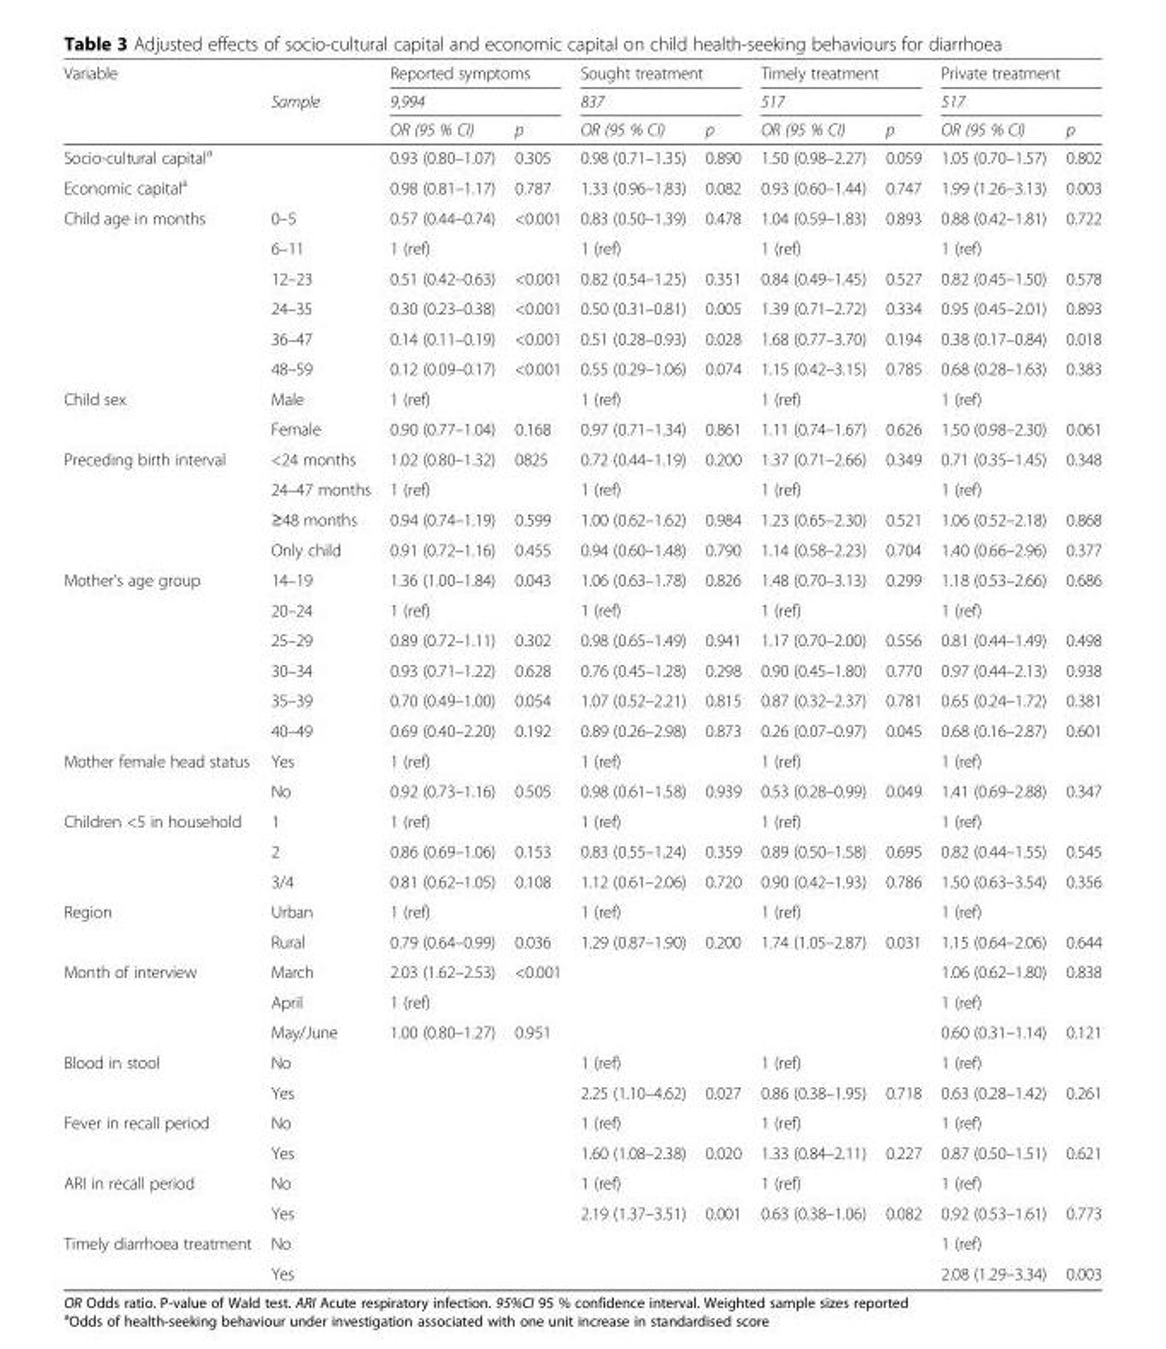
<table><thead><tr><td rowspan="3">Variable</td><td rowspan="3">Sample</td><td rowspan="2" colspan="2">Reported symptoms 9,994</td><td rowspan="2" colspan="2">Sought treatment 837</td><td rowspan="2" colspan="2">Timely treatment 517</td><td rowspan="2" colspan="2">Private treatment 517</td></tr><tr></tr><tr><td>OR (95 % CI)</td><td>p</td><td>OR (95 % CI)</td><td>p</td><td>OR (95 % CI)</td><td>p</td><td>OR (95 % CI)</td><td>p</td></tr></thead><tbody><tr><td colspan="2">Socio-cultural capital<sup>a</sup></td><td>0.93 (0.80–1.07)</td><td>0.305</td><td>0.98 (0.71–1.35)</td><td>0.890</td><td>1.50 (0.98–2.27)</td><td>0.059</td><td>1.05 (0.70–1.57)</td><td>0.802</td></tr><tr><td colspan="2">Economic capital<sup>a</sup></td><td>0.98 (0.81–1.17)</td><td>0.787</td><td>1.33 (0.96–1.83)</td><td>0.082</td><td>0.93 (0.60–1.44)</td><td>0.747</td><td>1.99 (1.26–3.13)</td><td>0.003</td></tr><tr><td rowspan="6">Child age in months</td><td>0–5</td><td>0.57 (0.44–0.74)</td><td>&lt;0.001</td><td>0.83 (0.50–1.39)</td><td>0.478</td><td>1.04 (0.59–1.83)</td><td>0.893</td><td>0.88 (0.42–1.81)</td><td>0.722</td></tr><tr><td>6–11</td><td>1 (ref)</td><td></td><td>1 (ref)</td><td></td><td>1 (ref)</td><td></td><td>1 (ref)</td><td></td></tr><tr><td>12–23</td><td>0.51 (0.42–0.63)</td><td>&lt;0.001</td><td>0.82 (0.54–1.25)</td><td>0.351</td><td>0.84 (0.49–1.45)</td><td>0.527</td><td>0.82 (0.45–1.50)</td><td>0.578</td></tr><tr><td>24–35</td><td>0.30 (0.23–0.38)</td><td>&lt;0.001</td><td>0.50 (0.31–0.81)</td><td>0.005</td><td>1.39 (0.71–2.72)</td><td>0.334</td><td>0.95 (0.45–2.01)</td><td>0.893</td></tr><tr><td>36–47</td><td>0.14 (0.11–0.19)</td><td>&lt;0.001</td><td>0.51 (0.28–0.93)</td><td>0.028</td><td>1.68 (0.77–3.70)</td><td>0.194</td><td>0.38 (0.17–0.84)</td><td>0.018</td></tr><tr><td>48–59</td><td>0.12 (0.09–0.17)</td><td>&lt;0.001</td><td>0.55 (0.29–1.06)</td><td>0.074</td><td>1.15 (0.42–3.15)</td><td>0.785</td><td>0.68 (0.28–1.63)</td><td>0.383</td></tr><tr><td rowspan="2">Child sex</td><td>Male</td><td>1 (ref)</td><td></td><td>1 (ref)</td><td></td><td>1 (ref)</td><td></td><td>1 (ref)</td><td></td></tr><tr><td>Female</td><td>0.90 (0.77–1.04)</td><td>0.168</td><td>0.97 (0.71–1.34)</td><td>0.861</td><td>1.11 (0.74–1.67)</td><td>0.626</td><td>1.50 (0.98–2.30)</td><td>0.061</td></tr><tr><td rowspan="4">Preceding birth interval</td><td>&lt;24 months</td><td>1.02 (0.80–1.32)</td><td>0825</td><td>0.72 (0.44–1.19)</td><td>0.200</td><td>1.37 (0.71–2.66)</td><td>0.349</td><td>0.71 (0.35–1.45)</td><td>0.348</td></tr><tr><td>24–47 months</td><td>1 (ref)</td><td></td><td>1 (ref)</td><td></td><td>1 (ref)</td><td></td><td>1 (ref)</td><td></td></tr><tr><td>≥48 months</td><td>0.94 (0.74–1.19)</td><td>0.599</td><td>1.00 (0.62–1.62)</td><td>0.984</td><td>1.23 (0.65–2.30)</td><td>0.521</td><td>1.06 (0.52–2.18)</td><td>0.868</td></tr><tr><td>Only child</td><td>0.91 (0.72–1.16)</td><td>0.455</td><td>0.94 (0.60–1.48)</td><td>0.790</td><td>1.14 (0.58–2.23)</td><td>0.704</td><td>1.40 (0.66–2.96)</td><td>0.377</td></tr><tr><td rowspan="6">Mother’s age group</td><td>14–19</td><td>1.36 (1.00–1.84)</td><td>0.043</td><td>1.06 (0.63–1.78)</td><td>0.826</td><td>1.48 (0.70–3.13)</td><td>0.299</td><td>1.18 (0.53–2.66)</td><td>0.686</td></tr><tr><td>20–24</td><td>1 (ref)</td><td></td><td>1 (ref)</td><td></td><td>1 (ref)</td><td></td><td>1 (ref)</td><td></td></tr><tr><td>25–29</td><td>0.89 (0.72–1.11)</td><td>0.302</td><td>0.98 (0.65–1.49)</td><td>0.941</td><td>1.17 (0.70–2.00)</td><td>0.556</td><td>0.81 (0.44–1.49)</td><td>0.498</td></tr><tr><td>30–34</td><td>0.93 (0.71–1.22)</td><td>0.628</td><td>0.76 (0.45–1.28)</td><td>0.298</td><td>0.90 (0.45–1.80)</td><td>0.770</td><td>0.97 (0.44–2.13)</td><td>0.938</td></tr><tr><td>35–39</td><td>0.70 (0.49–1.00)</td><td>0.054</td><td>1.07 (0.52–2.21)</td><td>0.815</td><td>0.87 (0.32–2.37)</td><td>0.781</td><td>0.65 (0.24–1.72)</td><td>0.381</td></tr><tr><td>40–49</td><td>0.69 (0.40–2.20)</td><td>0.192</td><td>0.89 (0.26–2.98)</td><td>0.873</td><td>0.26 (0.07–0.97)</td><td>0.045</td><td>0.68 (0.16–2.87)</td><td>0.601</td></tr><tr><td rowspan="2">Mother female head status</td><td>Yes</td><td>1 (ref)</td><td></td><td>1 (ref)</td><td></td><td>1 (ref)</td><td></td><td>1 (ref)</td><td></td></tr><tr><td>No</td><td>0.92 (0.73–1.16)</td><td>0.505</td><td>0.98 (0.61–1.58)</td><td>0.939</td><td>0.53 (0.28–0.99)</td><td>0.049</td><td>1.41 (0.69–2.88)</td><td>0.347</td></tr><tr><td rowspan="3">Children &lt;5 in household</td><td>1</td><td>1 (ref)</td><td></td><td>1 (ref)</td><td></td><td>1 (ref)</td><td></td><td>1 (ref)</td><td></td></tr><tr><td>2</td><td>0.86 (0.69–1.06)</td><td>0.153</td><td>0.83 (0.55–1.24)</td><td>0.359</td><td>0.89 (0.50–1.58)</td><td>0.695</td><td>0.82 (0.44–1.55)</td><td>0.545</td></tr><tr><td>3/4</td><td>0.81 (0.62–1.05)</td><td>0.108</td><td>1.12 (0.61–2.06)</td><td>0.720</td><td>0.90 (0.42–1.93)</td><td>0.786</td><td>1.50 (0.63–3.54)</td><td>0.356</td></tr><tr><td rowspan="2">Region</td><td>Urban</td><td>1 (ref)</td><td></td><td>1 (ref)</td><td></td><td>1 (ref)</td><td></td><td>1 (ref)</td><td></td></tr><tr><td>Rural</td><td>0.79 (0.64–0.99)</td><td>0.036</td><td>1.29 (0.87–1.90)</td><td>0.200</td><td>1.74 (1.05–2.87)</td><td>0.031</td><td>1.15 (0.64–2.06)</td><td>0.644</td></tr><tr><td rowspan="3">Month of interview</td><td>March</td><td>2.03 (1.62–2.53)</td><td>&lt;0.001</td><td></td><td></td><td></td><td></td><td>1.06 (0.62–1.80)</td><td>0.838</td></tr><tr><td>April</td><td>1 (ref)</td><td></td><td></td><td></td><td></td><td></td><td>1 (ref)</td><td></td></tr><tr><td>May/June</td><td>1.00 (0.80–1.27)</td><td>0.951</td><td></td><td></td><td></td><td></td><td>0.60 (0.31–1.14)</td><td>0.121</td></tr><tr><td rowspan="2">Blood in stool</td><td>No</td><td></td><td></td><td>1 (ref)</td><td></td><td>1 (ref)</td><td></td><td>1 (ref)</td><td></td></tr><tr><td>Yes</td><td></td><td></td><td>2.25 (1.10–4.62)</td><td>0.027</td><td>0.86 (0.38–1.95)</td><td>0.718</td><td>0.63 (0.28–1.42)</td><td>0.261</td></tr><tr><td rowspan="2">Fever in recall period</td><td>No</td><td></td><td></td><td>1 (ref)</td><td></td><td>1 (ref)</td><td></td><td>1 (ref)</td><td></td></tr><tr><td>Yes</td><td></td><td></td><td>1.60 (1.08–2.38)</td><td>0.020</td><td>1.33 (0.84–2.11)</td><td>0.227</td><td>0.87 (0.50–1.51)</td><td>0.621</td></tr><tr><td rowspan="2">ARI in recall period</td><td>No</td><td></td><td></td><td>1 (ref)</td><td></td><td>1 (ref)</td><td></td><td>1 (ref)</td><td></td></tr><tr><td>Yes</td><td></td><td></td><td>2.19 (1.37–3.51)</td><td>0.001</td><td>0.63 (0.38–1.06)</td><td>0.082</td><td>0.92 (0.53–1.61)</td><td>0.773</td></tr><tr><td rowspan="2">Timely diarrhoea treatment</td><td>No</td><td></td><td></td><td></td><td></td><td></td><td></td><td>1 (ref)</td><td></td></tr><tr><td>Yes</td><td></td><td></td><td></td><td></td><td></td><td></td><td>2.08 (1.29–3.34)</td><td>0.003</td></tr></tbody></table>